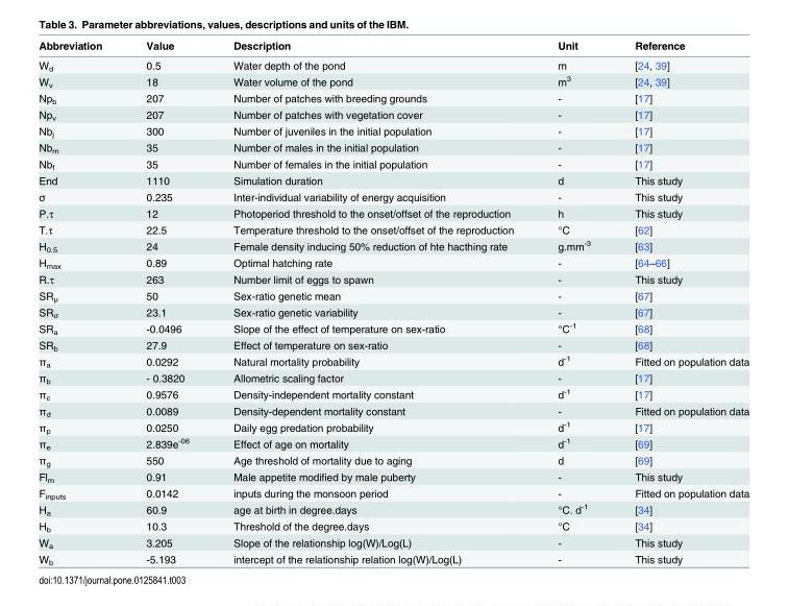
<table><thead><tr><td>Abbreviation</td><td>Value</td><td>Description</td><td>Unit</td><td>Reference</td></tr></thead><tbody><tr><td>W<sub>d</sub></td><td>0.5</td><td>Water depth of the pond</td><td>m</td><td>[24, 39]</td></tr><tr><td>W<sub>v</sub></td><td>18</td><td>Water volume of the pond</td><td>m<sup>3</sup></td><td>[24, 39]</td></tr><tr><td>Np<sub>b</sub></td><td>207</td><td>Number of patches with breeding grounds</td><td>-</td><td>[17]</td></tr><tr><td>Np<sub>v</sub></td><td>207</td><td>Number of patches with vegetation cover</td><td>-</td><td>[17]</td></tr><tr><td>Nb<sub>j</sub></td><td>300</td><td>Number of juveniles in the initial population</td><td>-</td><td>[17]</td></tr><tr><td>Nb<sub>m</sub></td><td>35</td><td>Number of males in the initial population</td><td>-</td><td>[17]</td></tr><tr><td>Nb<sub>f</sub></td><td>35</td><td>Number of females in the initial population</td><td>-</td><td>[17]</td></tr><tr><td>End</td><td>1110</td><td>Simulation duration</td><td>d</td><td>This study</td></tr><tr><td>σ</td><td>0.235</td><td>Inter-individual variability of energy acquisition</td><td>-</td><td>This study</td></tr><tr><td>P.τ</td><td>12</td><td>Photoperiod threshold to the onset/offset of the reproduction</td><td>h</td><td>This study</td></tr><tr><td>T.τ</td><td>22.5</td><td>Temperature threshold to the onset/offset of the reproduction</td><td>°C</td><td>[62]</td></tr><tr><td>H<sub>0.5</sub></td><td>24</td><td>Female density inducing 50% reduction of hte hacthing rate</td><td>g.mm<sup>-3</sup></td><td>[63]</td></tr><tr><td>H<sub>max</sub></td><td>0.89</td><td>Optimal hatching rate</td><td>-</td><td>[64–66]</td></tr><tr><td>R.τ</td><td>263</td><td>Number limit of eggs to spawn</td><td>-</td><td>This study</td></tr><tr><td>SR<sub>μ</sub></td><td>50</td><td>Sex-ratio genetic mean</td><td>-</td><td>[67]</td></tr><tr><td>SR<sub>σ</sub></td><td>23.1</td><td>Sex-ratio genetic variability</td><td>-</td><td>[67]</td></tr><tr><td>SR<sub>a</sub></td><td>-0.0496</td><td>Slope of the effect of temperature on sex-ratio</td><td>°C<sup>-1</sup></td><td>[68]</td></tr><tr><td>SR<sub>b</sub></td><td>27.9</td><td>Effect of temperature on sex-ratio</td><td>-</td><td>[68]</td></tr><tr><td>π<sub>a</sub></td><td>0.0292</td><td>Natural mortality probability</td><td>d<sup>-1</sup></td><td>Fitted on population data</td></tr><tr><td>π<sub>b</sub></td><td>- 0.3820</td><td>Allometric scaling factor</td><td>-</td><td>[17]</td></tr><tr><td>π<sub>c</sub></td><td>0.9576</td><td>Density-independent mortality constant</td><td>d<sup>-1</sup></td><td>[17]</td></tr><tr><td>π<sub>d</sub></td><td>0.0089</td><td>Density-dependent mortality constant</td><td>-</td><td>Fitted on population data</td></tr><tr><td>π<sub>p</sub></td><td>0.0250</td><td>Daily egg predation probability</td><td>d<sup>-1</sup></td><td>[17]</td></tr><tr><td>π<sub>e</sub></td><td>2.839e<sup>-06</sup></td><td>Effect of age on mortality</td><td>d<sup>-1</sup></td><td>[69]</td></tr><tr><td>π<sub>g</sub></td><td>550</td><td>Age threshold of mortality due to aging</td><td>d</td><td>[69]</td></tr><tr><td>Fl<sub>m</sub></td><td>0.91</td><td>Male appetite modified by male puberty</td><td>-</td><td>This study</td></tr><tr><td>F<sub>inputs</sub></td><td>0.0142</td><td>inputs during the monsoon period</td><td>-</td><td>Fitted on population data</td></tr><tr><td>H<sub>a</sub></td><td>60.9</td><td>age at birth in degree.days</td><td>°C. d<sup>-1</sup></td><td>[34]</td></tr><tr><td>H<sub>b</sub></td><td>10.3</td><td>Threshold of the degree.days</td><td>°C</td><td>[34]</td></tr><tr><td>W<sub>a</sub></td><td>3.205</td><td>Slope of the relationship log(W)/Log(L)</td><td>-</td><td>This study</td></tr><tr><td>W<sub>b</sub></td><td>-5.193</td><td>intercept of the relationship relation log(W)/Log(L)</td><td>-</td><td>This study</td></tr></tbody></table>